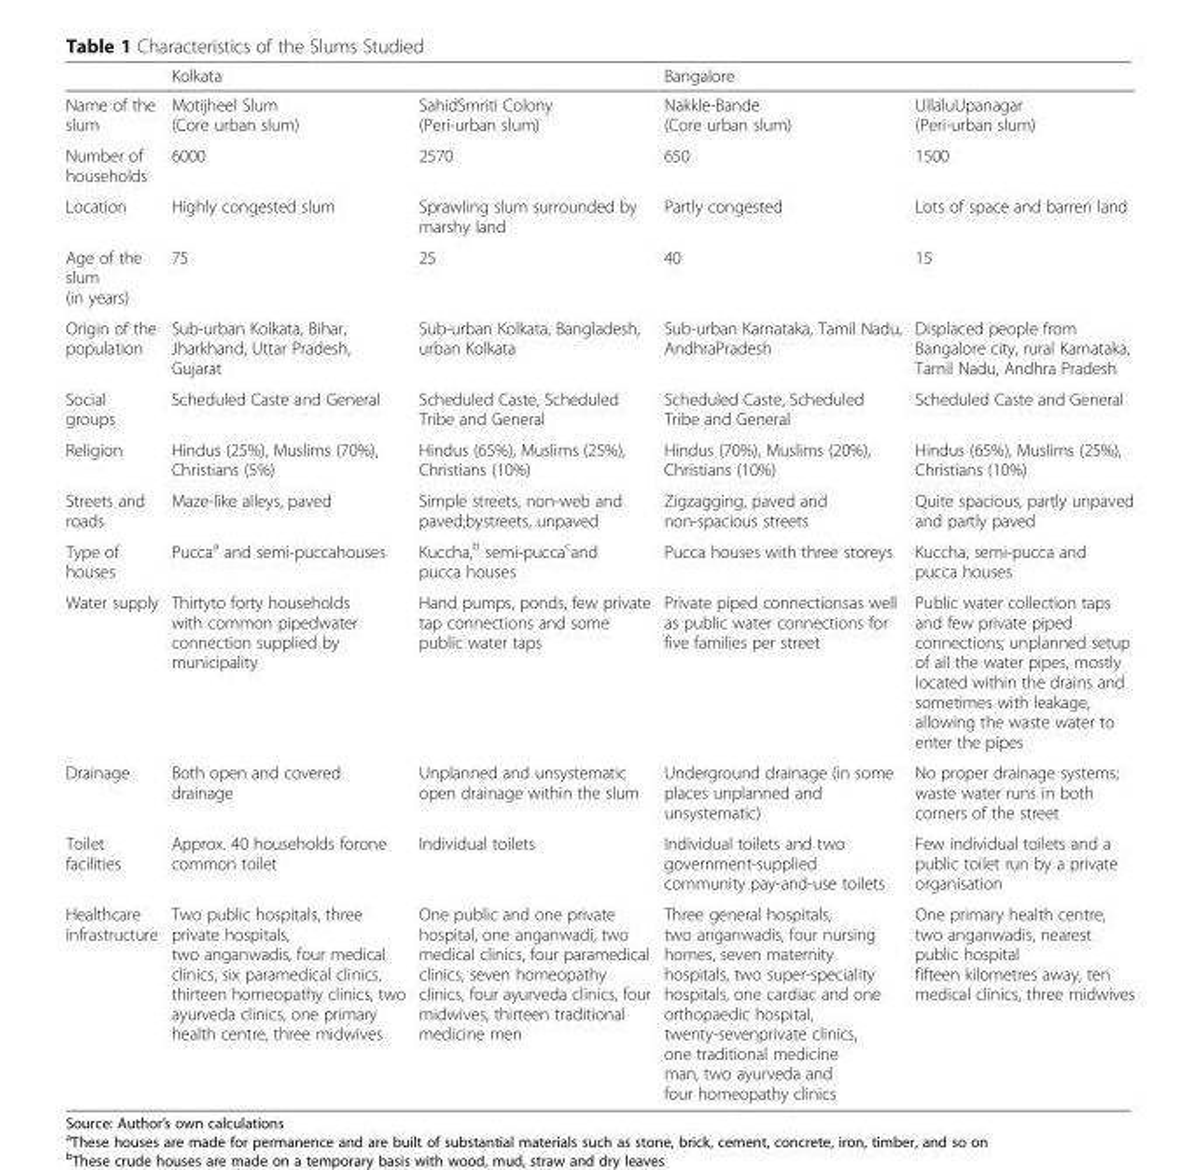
<table><thead><tr><td rowspan="2">Name of the slum</td><td colspan="2">Kolkata</td><td colspan="2">Bangalore</td></tr><tr><td>Motijheel Slum (Core urban slum)</td><td>SahidSmriti Colony (Peri-urban slum)</td><td>Nakkle-Bande (Core urban slum)</td><td>UllaluUpanagar (Peri-urban slum)</td></tr></thead><tbody><tr><td>Number of households</td><td>6000</td><td>2570</td><td>650</td><td>1500</td></tr><tr><td>Location</td><td>Highly congested slum</td><td>Sprawling slum surrounded by marshy land</td><td>Partly congested</td><td>Lots of space and barren land</td></tr><tr><td>Age of the slum (in years)</td><td>75</td><td>25</td><td>40</td><td>15</td></tr><tr><td>Origin of the population</td><td>Sub-urban Kolkata, Bihar, Jharkhand, Uttar Pradesh, Gujarat</td><td>Sub-urban Kolkata, Bangladesh, urban Kolkata</td><td>Sub-urban Karnataka, Tamil Nadu, AndhraPradesh</td><td>Displaced people from Bangalore city, rural Karnataka, Tamil Nadu, Andhra Pradesh</td></tr><tr><td>Social groups</td><td>Scheduled Caste and General</td><td>Scheduled Caste, Scheduled Tribe and General</td><td>Scheduled Caste, Scheduled Tribe and General</td><td>Scheduled Caste and General</td></tr><tr><td>Religion</td><td>Hindus (25%), Muslims (70%), Christians (5%)</td><td>Hindus (65%), Muslims (25%), Christians (10%)</td><td>Hindus (70%), Muslims (20%), Christians (10%)</td><td>Hindus (65%), Muslims (25%), Christians (10%)</td></tr><tr><td>Streets and roads</td><td>Maze-like alleys, paved</td><td>Simple streets, non-web and paved;bystreets, unpaved</td><td>Zigzagging, paved and non-spacious streets</td><td>Quite spacious, partly unpaved and partly paved</td></tr><tr><td>Type of houses</td><td>Pucca<sup>a</sup> and semi-puccahouses</td><td>Kuccha,<sup>b</sup> semi-pucca<sup>c</sup>and pucca houses</td><td>Pucca houses with three storeys</td><td>Kuccha, semi-pucca and pucca houses</td></tr><tr><td>Water supply</td><td>Thirtyto forty households with common pipedwater connection supplied by municipality</td><td>Hand pumps, ponds, few private tap connections and some public water taps</td><td>Private piped connectionsas well as public water connections for five families per street</td><td>Public water collection taps and few private piped connections; unplanned setup of all the water pipes, mostly located within the drains and sometimes with leakage, allowing the waste water to enter the pipes</td></tr><tr><td>Drainage</td><td>Both open and covered drainage</td><td>Unplanned and unsystematic open drainage within the slum</td><td>Underground drainage (in some places unplanned and unsystematic)</td><td>No proper drainage systems; waste water runs in both corners of the street</td></tr><tr><td>Toilet facilities</td><td>Approx. 40 households forone common toilet</td><td>Individual toilets</td><td>Individual toilets and two government-supplied community pay-and-use toilets</td><td>Few individual toilets and a public toilet run by a private organisation</td></tr><tr><td>Healthcare infrastructure</td><td>Two public hospitals, three private hospitals, two anganwadis, four medical clinics, six paramedical clinics, thirteen homeopathy clinics, two ayurveda clinics, one primary health centre, three midwives</td><td>One public and one private hospital, one anganwadi, two medical clinics, four paramedical clinics, seven homeopathy clinics, four ayurveda clinics, four midwives, thirteen traditional medicine men</td><td>Three general hospitals, two anganwadis, four nursing homes, seven maternity hospitals, two super-speciality hospitals, one cardiac and one orthopaedic hospital, twenty-sevenprivate clinics, one traditional medicine man, two ayurveda and four homeopathy clinics</td><td>One primary health centre, two anganwadis, nearest public hospital fifteen kilometres away, ten medical clinics, three midwives</td></tr></tbody></table>